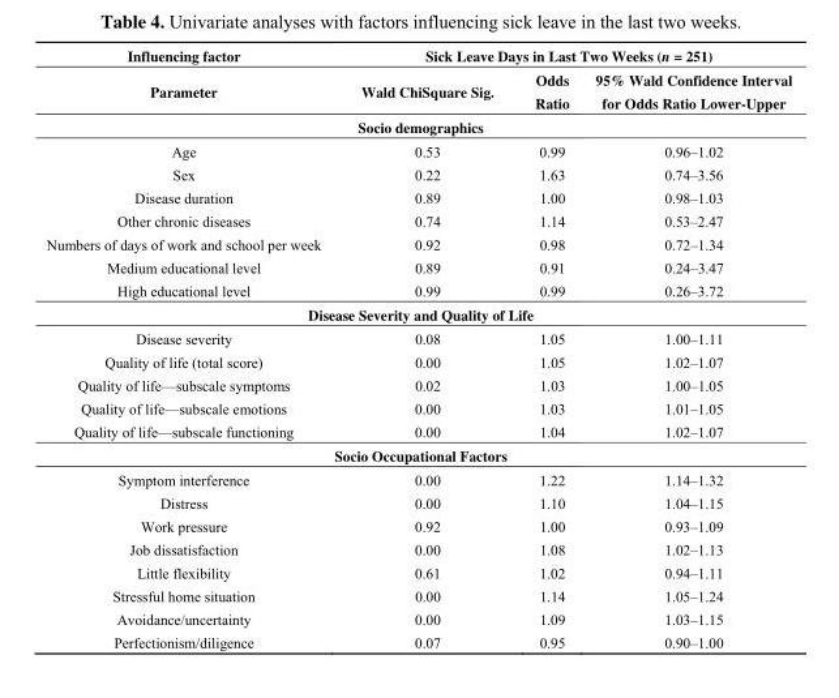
<table><thead><tr><td rowspan="2">Influencing factor Parameter</td><td colspan="3">Sick Leave Days in Last Two Weeks (n = 251)</td></tr><tr><td>Wald ChiSquare Sig.</td><td>Odds Ratio</td><td>95% Wald Confidence Interval for Odds Ratio Lower-Upper</td></tr></thead><tbody><tr><td colspan="4">Socio demographics</td></tr><tr><td>Age</td><td>0.53</td><td>0.99</td><td>0.96–1.02</td></tr><tr><td>Sex</td><td>0.22</td><td>1.63</td><td>0.74–3.56</td></tr><tr><td>Disease duration</td><td>0.89</td><td>1.00</td><td>0.98–1.03</td></tr><tr><td>Other chronic diseases</td><td>0.74</td><td>1.14</td><td>0.53–2.47</td></tr><tr><td>Numbers of days of work and school per week</td><td>0.92</td><td>0.98</td><td>0.72–1.34</td></tr><tr><td>Medium educational level</td><td>0.89</td><td>0.91</td><td>0.24–3.47</td></tr><tr><td>High educational level</td><td>0.99</td><td>0.99</td><td>0.26–3.72</td></tr><tr><td colspan="4">Disease Severity and Quality of Life</td></tr><tr><td>Disease severity</td><td>0.08</td><td>1.05</td><td>1.00–1.11</td></tr><tr><td>Quality of life (total score)</td><td>0.00</td><td>1.05</td><td>1.02–1.07</td></tr><tr><td>Quality of life—subscale symptoms</td><td>0.02</td><td>1.03</td><td>1.00–1.05</td></tr><tr><td>Quality of life—subscale emotions</td><td>0.00</td><td>1.03</td><td>1.01–1.05</td></tr><tr><td>Quality of life—subscale functioning</td><td>0.00</td><td>1.04</td><td>1.02–1.07</td></tr><tr><td colspan="4">Socio Occupational Factors</td></tr><tr><td>Symptom interference</td><td>0.00</td><td>1.22</td><td>1.14–1.32</td></tr><tr><td>Distress</td><td>0.00</td><td>1.10</td><td>1.04–1.15</td></tr><tr><td>Work pressure</td><td>0.92</td><td>1.00</td><td>0.93–1.09</td></tr><tr><td>Job dissatisfaction</td><td>0.00</td><td>1.08</td><td>1.02–1.13</td></tr><tr><td>Little flexibility</td><td>0.61</td><td>1.02</td><td>0.94–1.11</td></tr><tr><td>Stressful home situation</td><td>0.00</td><td>1.14</td><td>1.05–1.24</td></tr><tr><td>Avoidance/uncertainty</td><td>0.00</td><td>1.09</td><td>1.03–1.15</td></tr><tr><td>Perfectionism/diligence</td><td>0.07</td><td>0.95</td><td>0.90–1.00</td></tr></tbody></table>